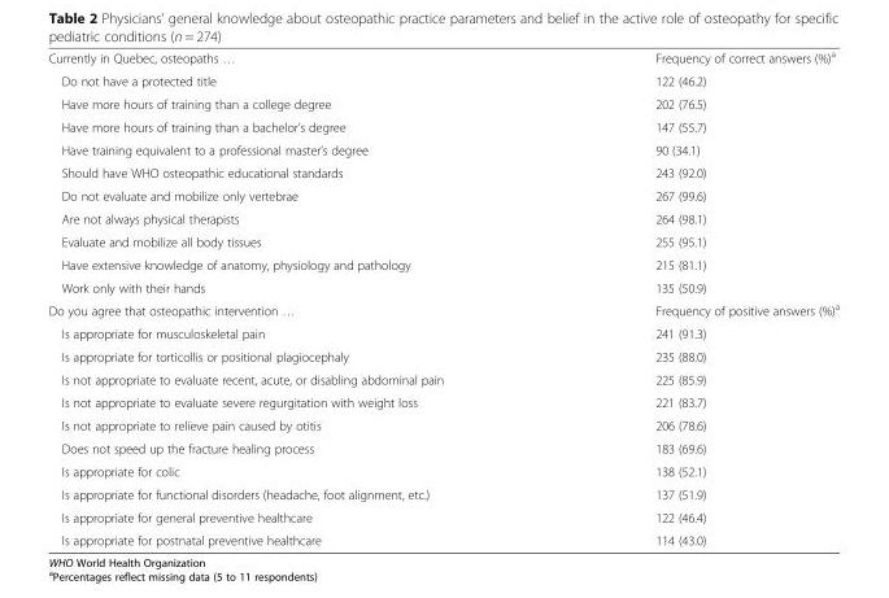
<table><tbody><tr><td>Currently in Quebec, osteopaths …</td><td>Frequency of correct answers (%)<sup>a</sup></td></tr><tr><td>Do not have a protected title</td><td>122 (46.2)</td></tr><tr><td>Have more hours of training than a college degree</td><td>202 (76.5)</td></tr><tr><td>Have more hours of training than a bachelor’s degree</td><td>147 (55.7)</td></tr><tr><td>Have training equivalent to a professional master’s degree</td><td>90 (34.1)</td></tr><tr><td>Should have WHO osteopathic educational standards</td><td>243 (92.0)</td></tr><tr><td>Do not evaluate and mobilize only vertebrae</td><td>267 (99.6)</td></tr><tr><td>Are not always physical therapists</td><td>264 (98.1)</td></tr><tr><td>Evaluate and mobilize all body tissues</td><td>255 (95.1)</td></tr><tr><td>Have extensive knowledge of anatomy, physiology and pathology</td><td>215 (81.1)</td></tr><tr><td>Work only with their hands</td><td>135 (50.9)</td></tr><tr><td>Do you agree that osteopathic intervention …</td><td>Frequency of positive answers (%)<sup>a</sup></td></tr><tr><td>Is appropriate for musculoskeletal pain</td><td>241 (91.3)</td></tr><tr><td>Is appropriate for torticollis or positional plagiocephaly</td><td>235 (88.0)</td></tr><tr><td>Is not appropriate to evaluate recent, acute, or disabling abdominal pain</td><td>225 (85.9)</td></tr><tr><td>Is not appropriate to evaluate severe regurgitation with weight loss</td><td>221 (83.7)</td></tr><tr><td>Is not appropriate to relieve pain caused by otitis</td><td>206 (78.6)</td></tr><tr><td>Does not speed up the fracture healing process</td><td>183 (69.6)</td></tr><tr><td>Is appropriate for colic</td><td>138 (52.1)</td></tr><tr><td>Is appropriate for functional disorders (headache, foot alignment, etc.)</td><td>137 (51.9)</td></tr><tr><td>Is appropriate for general preventive healthcare</td><td>122 (46.4)</td></tr><tr><td>Is appropriate for postnatal preventive healthcare</td><td>114 (43.0)</td></tr></tbody></table>